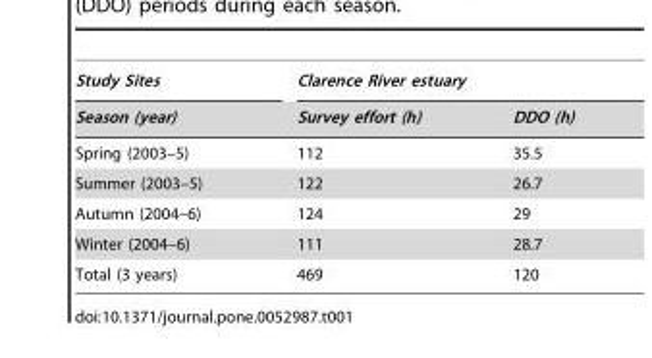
<table><thead><tr><td rowspan="2">Study Sites Season (year)</td><td colspan="2">Clarence River estuary</td></tr><tr><td>Survey effort (h)</td><td>DDO (h)</td></tr></thead><tbody><tr><td>Spring (2003–5)</td><td>112</td><td>35.5</td></tr><tr><td>Summer (2003–5)</td><td>122</td><td>26.7</td></tr><tr><td>Autumn (2004–6)</td><td>124</td><td>29</td></tr><tr><td>Winter (2004–6)</td><td>111</td><td>28.7</td></tr><tr><td>Total (3 years)</td><td>469</td><td>120</td></tr></tbody></table>